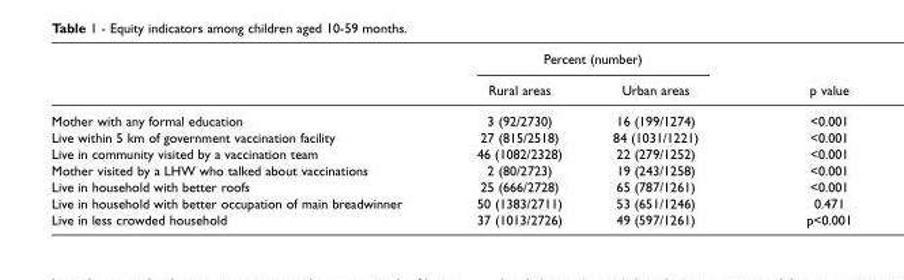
<table><thead><tr><td rowspan="2"></td><td colspan="2">Percent (number)</td><td rowspan="2">p value</td></tr><tr><td>Rural areas</td><td>Urban areas</td></tr></thead><tbody><tr><td>Mother with any formal education</td><td>3 (92/2730)</td><td>16 (199/1274)</td><td>&lt;0.001</td></tr><tr><td>Live within 5 km of government vaccination facility</td><td>27 (815/2518)</td><td>84 (1031/1221)</td><td>&lt;0.001</td></tr><tr><td>Live in community visited by a vaccination team</td><td>46 (1082/2328)</td><td>22 (279/1252)</td><td>&lt;0.001</td></tr><tr><td>Mother visited by a LHW who talked about vaccinations</td><td>2 (80/2723)</td><td>19 (243/1258)</td><td>&lt;0.001</td></tr><tr><td>Live in household with better roofs</td><td>25 (666/2728)</td><td>65 (787/1261)</td><td>&lt;0.001</td></tr><tr><td>Live in household with better occupation of main breadwinner</td><td>50 (1383/2711)</td><td>53 (651/1246)</td><td>0.471</td></tr><tr><td>Live in less crowded household</td><td>37 (1013/2726)</td><td>49 (597/1261)</td><td>p&lt;0.001</td></tr></tbody></table>